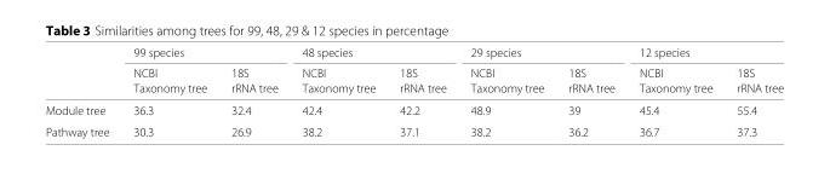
<table><thead><tr><td rowspan="3"></td><td rowspan="3">99 species NCBI Taxonomy tree</td><td rowspan="3">18S rRNA tree</td><td rowspan="3">48 species NCBI Taxonomy tree</td><td rowspan="3">18S rRNA tree</td><td rowspan="3">29 species NCBI Taxonomy tree</td><td rowspan="3">18S rRNA tree</td><td rowspan="3">12 species NCBI Taxonomy tree</td><td rowspan="3">18S rRNA tree</td></tr><tr></tr><tr></tr></thead><tbody><tr><td>Module tree</td><td>36.3</td><td>32.4</td><td>42.4</td><td>42.2</td><td>48.9</td><td>39</td><td>45.4</td><td>55.4</td></tr><tr><td>Pathway tree</td><td>30.3</td><td>26.9</td><td>38.2</td><td>37.1</td><td>38.2</td><td>36.2</td><td>36.7</td><td>37.3</td></tr></tbody></table>